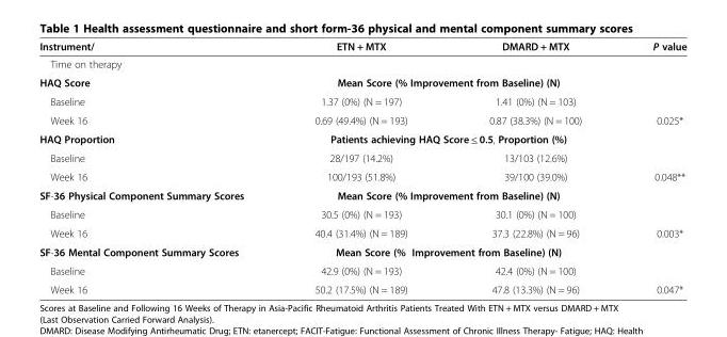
<table><thead><tr><td>Instrument/</td><td>ETN + MTX</td><td>DMARD + MTX</td><td>P value</td></tr></thead><tbody><tr><td colspan="4">Time on therapy</td></tr><tr><td>HAQ Score</td><td colspan="2">Mean Score (% Improvement from Baseline) (N)</td><td></td></tr><tr><td>Baseline</td><td>1.37 (0%) (N = 197)</td><td>1.41 (0%) (N = 103)</td><td></td></tr><tr><td>Week 16</td><td>0.69 (49.4%) (N = 193)</td><td>0.87 (38.3%) (N = 100)</td><td>0.025*</td></tr><tr><td>HAQ Proportion</td><td colspan="2">Patients achieving HAQ Score ≤ 0.5, Proportion (%)</td><td></td></tr><tr><td>Baseline</td><td>28/197 (14.2%)</td><td>13/103 (12.6%)</td><td></td></tr><tr><td>Week 16</td><td>100/193 (51.8%)</td><td>39/100 (39.0%)</td><td>0.048**</td></tr><tr><td>SF-36 Physical Component Summary Scores</td><td colspan="2">Mean Score (% Improvement from Baseline) (N)</td><td></td></tr><tr><td>Baseline</td><td>30.5 (0%) (N = 193)</td><td>30.1 (0%) (N = 100)</td><td></td></tr><tr><td>Week 16</td><td>40.4 (31.4%) (N = 189)</td><td>37.3 (22.8%) (N = 96)</td><td>0.003*</td></tr><tr><td>SF-36 Mental Component Summary Scores</td><td colspan="2">Mean Score (% Improvement from Baseline) (N)</td><td></td></tr><tr><td>Baseline</td><td>42.9 (0%) (N = 193)</td><td>42.4 (0%) (N = 100)</td><td></td></tr><tr><td>Week 16</td><td>50.2 (17.5%) (N = 189)</td><td>47.8 (13.3%) (N = 96)</td><td>0.047*</td></tr></tbody></table>